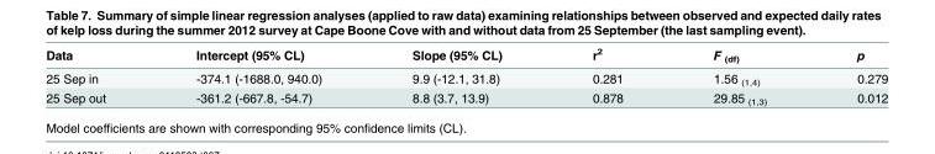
<table><thead><tr><td>Data</td><td>Intercept (95% CL)</td><td>Slope (95% CL)</td><td>r<sup>2</sup></td><td>F <sub>(df)</sub></td><td>p</td></tr></thead><tbody><tr><td>25 Sep in</td><td>-374.1 (-1688.0, 940.0)</td><td>9.9 (-12.1, 31.8)</td><td>0.281</td><td>1.56 <sub>(1,4)</sub></td><td>0.279</td></tr><tr><td>25 Sep out</td><td>-361.2 (-667.8, -54.7)</td><td>8.8 (3.7, 13.9)</td><td>0.878</td><td>29.85 <sub>(1,3)</sub></td><td>0.012</td></tr></tbody></table>